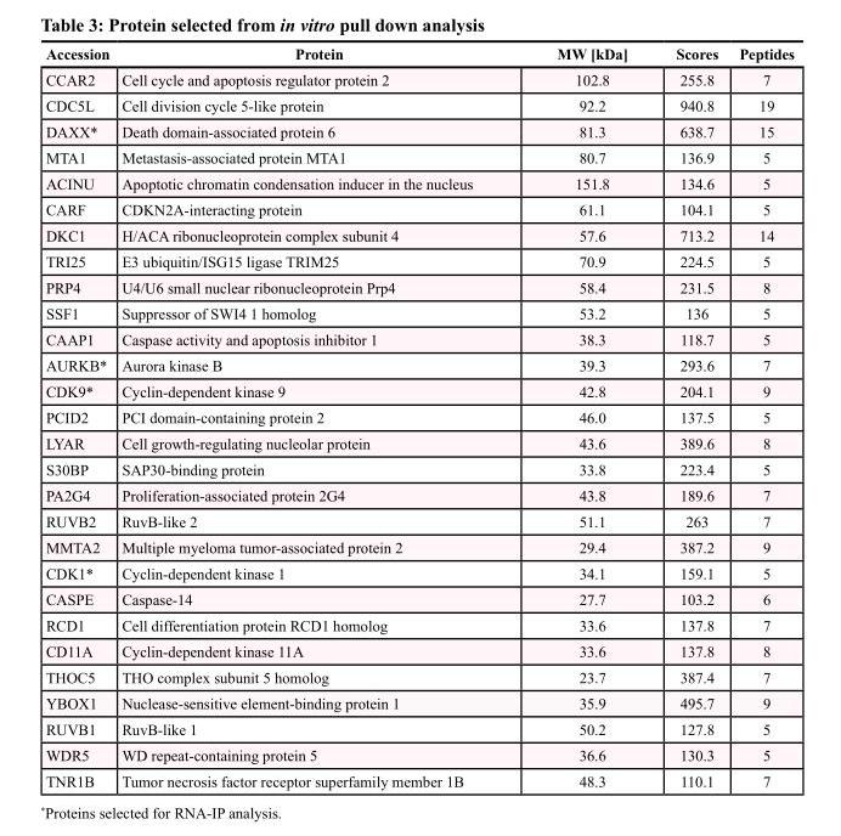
<table><thead><tr><td>Accession</td><td>Protein</td><td>MW [kDa]</td><td>Scores</td><td>Peptides</td></tr></thead><tbody><tr><td>CCAR2</td><td>Cell cycle and apoptosis regulator protein 2</td><td>102.8</td><td>255.8</td><td>7</td></tr><tr><td>CDC5L</td><td>Cell division cycle 5-like protein</td><td>92.2</td><td>940.8</td><td>19</td></tr><tr><td>DAXX*</td><td>Death domain-associated protein 6</td><td>81.3</td><td>638.7</td><td>15</td></tr><tr><td>MTA1</td><td>Metastasis-associated protein MTA1</td><td>80.7</td><td>136.9</td><td>5</td></tr><tr><td>ACINU</td><td>Apoptotic chromatin condensation inducer in the nucleus</td><td>151.8</td><td>134.6</td><td>5</td></tr><tr><td>CARF</td><td>CDKN2A-interacting protein</td><td>61.1</td><td>104.1</td><td>5</td></tr><tr><td>DKC1</td><td>H/ACA ribonucleoprotein complex subunit 4</td><td>57.6</td><td>713.2</td><td>14</td></tr><tr><td>TRI25</td><td>E3 ubiquitin/ISG15 ligase TRIM25</td><td>70.9</td><td>224.5</td><td>5</td></tr><tr><td>PRP4</td><td>U4/U6 small nuclear ribonucleoprotein Prp4</td><td>58.4</td><td>231.5</td><td>8</td></tr><tr><td>SSF1</td><td>Suppressor of SWI4 1 homolog</td><td>53.2</td><td>136</td><td>5</td></tr><tr><td>CAAP1</td><td>Caspase activity and apoptosis inhibitor 1</td><td>38.3</td><td>118.7</td><td>5</td></tr><tr><td>AURKB*</td><td>Aurora kinase B</td><td>39.3</td><td>293.6</td><td>7</td></tr><tr><td>CDK9*</td><td>Cyclin-dependent kinase 9</td><td>42.8</td><td>204.1</td><td>9</td></tr><tr><td>PCID2</td><td>PCI domain-containing protein 2</td><td>46.0</td><td>137.5</td><td>5</td></tr><tr><td>LYAR</td><td>Cell growth-regulating nucleolar protein</td><td>43.6</td><td>389.6</td><td>8</td></tr><tr><td>S30BP</td><td>SAP30-binding protein</td><td>33.8</td><td>223.4</td><td>5</td></tr><tr><td>PA2G4</td><td>Proliferation-associated protein 2G4</td><td>43.8</td><td>189.6</td><td>7</td></tr><tr><td>RUVB2</td><td>RuvB-like 2</td><td>51.1</td><td>263</td><td>7</td></tr><tr><td>MMTA2</td><td>Multiple myeloma tumor-associated protein 2</td><td>29.4</td><td>387.2</td><td>9</td></tr><tr><td>CDK1*</td><td>Cyclin-dependent kinase 1</td><td>34.1</td><td>159.1</td><td>5</td></tr><tr><td>CASPE</td><td>Caspase-14</td><td>27.7</td><td>103.2</td><td>6</td></tr><tr><td>RCD1</td><td>Cell differentiation protein RCD1 homolog</td><td>33.6</td><td>137.8</td><td>7</td></tr><tr><td>CD11A</td><td>Cyclin-dependent kinase 11A</td><td>33.6</td><td>137.8</td><td>8</td></tr><tr><td>THOC5</td><td>THO complex subunit 5 homolog</td><td>23.7</td><td>387.4</td><td>7</td></tr><tr><td>YBOX1</td><td>Nuclease-sensitive element-binding protein 1</td><td>35.9</td><td>495.7</td><td>9</td></tr><tr><td>RUVB1</td><td>RuvB-like 1</td><td>50.2</td><td>127.8</td><td>5</td></tr><tr><td>WDR5</td><td>WD repeat-containing protein 5</td><td>36.6</td><td>130.3</td><td>5</td></tr><tr><td>TNR1B</td><td>Tumor necrosis factor receptor superfamily member 1B</td><td>48.3</td><td>110.1</td><td>7</td></tr></tbody></table>